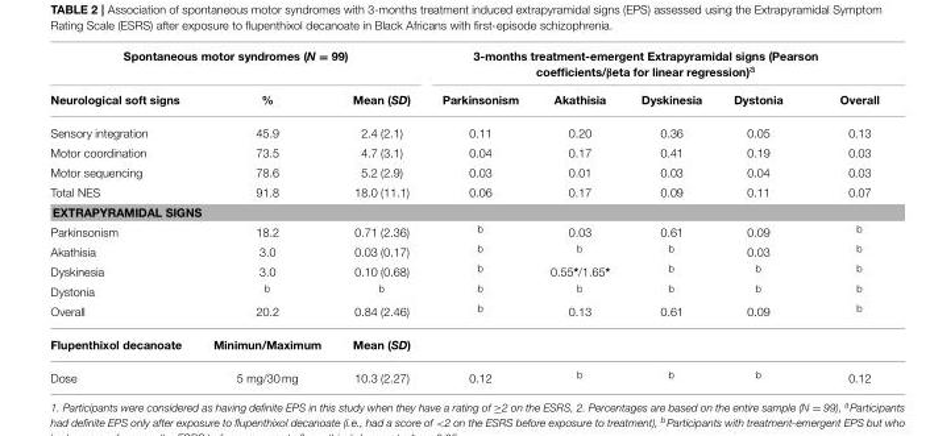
<table><thead><tr><td colspan="3">Spontaneous motor syndromes (N = 99)</td><td colspan="5">3-months treatment-emergent Extrapyramidal signs (Pearson coefficients/βeta for linear regression)<sup>a</sup></td></tr><tr><td>Neurological soft signs</td><td>%</td><td>Mean (SD)</td><td>Parkinsonism</td><td>Akathisia</td><td>Dyskinesia</td><td>Dystonia</td><td>Overall</td></tr></thead><tbody><tr><td>Sensory integration</td><td>45.9</td><td>2.4 (2.1)</td><td>0.11</td><td>0.20</td><td>0.36</td><td>0.05</td><td>0.13</td></tr><tr><td>Motor coordination</td><td>73.5</td><td>4.7 (3.1)</td><td>0.04</td><td>0.17</td><td>0.41</td><td>0.19</td><td>0.03</td></tr><tr><td>Motor sequencing</td><td>78.6</td><td>5.2 (2.9)</td><td>0.03</td><td>0.01</td><td>0.03</td><td>0.04</td><td>0.03</td></tr><tr><td>Total NES</td><td>91.8</td><td>18.0 (11.1)</td><td>0.06</td><td>0.17</td><td>0.09</td><td>0.11</td><td>0.07</td></tr><tr><td colspan="8">EXTRAPYRAMIDAL SIGNS</td></tr><tr><td>Parkinsonism</td><td>18.2</td><td>0.71 (2.36)</td><td><sup>b</sup></td><td>0.03</td><td>0.61</td><td>0.09</td><td><sup>b</sup></td></tr><tr><td>Akathisia</td><td>3.0</td><td>0.03 (0.17)</td><td><sup>b</sup></td><td><sup>b</sup></td><td><sup>b</sup></td><td>0.03</td><td><sup>b</sup></td></tr><tr><td>Dyskinesia</td><td>3.0</td><td>0.10 (0.68)</td><td><sup>b</sup></td><td>0.55*/1.65*</td><td><sup>b</sup></td><td><sup>b</sup></td><td><sup>b</sup></td></tr><tr><td>Dystonia</td><td><sup>b</sup></td><td><sup>b</sup></td><td><sup>b</sup></td><td><sup>b</sup></td><td><sup>b</sup></td><td><sup>b</sup></td><td><sup>b</sup></td></tr><tr><td>Overall</td><td>20.2</td><td>0.84 (2.46)</td><td><sup>b</sup></td><td>0.13</td><td>0.61</td><td>0.09</td><td><sup>b</sup></td></tr><tr><td>Flupenthixol decanoate</td><td>Minimun/Maximum</td><td>Mean (SD)</td><td></td><td></td><td></td><td></td><td></td></tr><tr><td>Dose</td><td>5 mg/30 mg</td><td>10.3 (2.27)</td><td>0.12</td><td><sup>b</sup></td><td><sup>b</sup></td><td><sup>b</sup></td><td>0.12</td></tr></tbody></table>